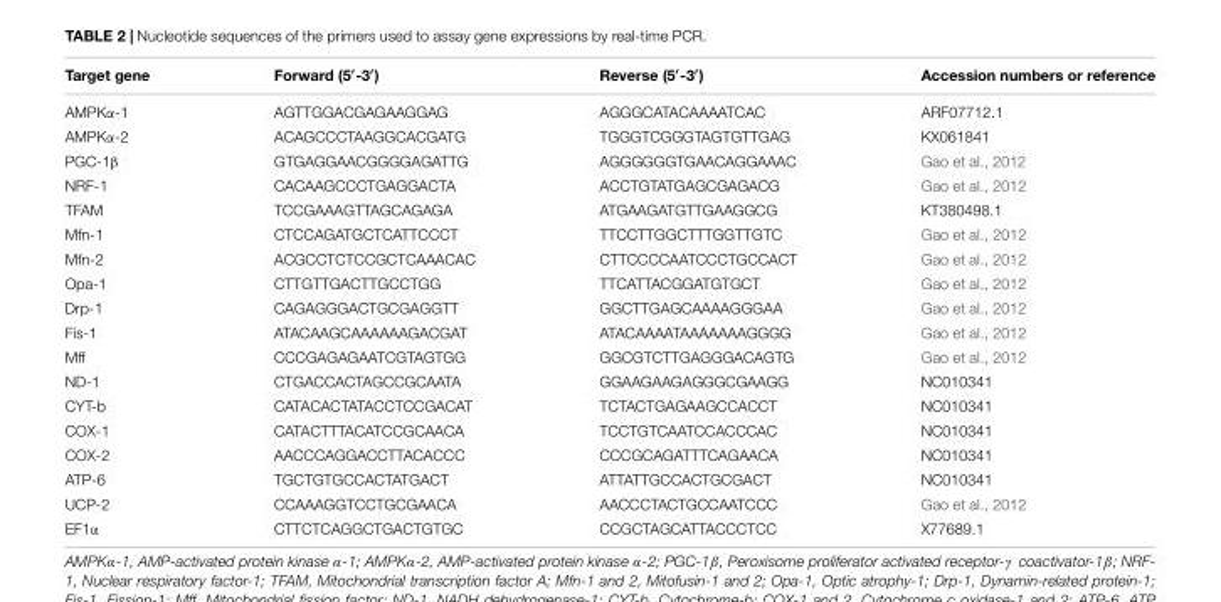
<table><thead><tr><td>Target gene</td><td>Forward (5′-3′)</td><td>Reverse (5′-3′)</td><td>Accession numbers or reference</td></tr></thead><tbody><tr><td>AMPKα-1</td><td>AGTTGGACGAGAAGGAG</td><td>AGGGCATACAAAATCAC</td><td>ARF07712.1</td></tr><tr><td>AMPKα-2</td><td>ACAGCCCTAAGGCACGATG</td><td>TGGGTCGGGTAGTGTTGAG</td><td>KX061841</td></tr><tr><td>PGC-1β</td><td>GTGAGGAACGGGGAGATTG</td><td>AGGGGGGTGAACAGGAAAC</td><td>Gao et al., 2012</td></tr><tr><td>NRF-1</td><td>CACAAGCCCTGAGGACTA</td><td>ACCTGTATGAGCGAGACG</td><td>Gao et al., 2012</td></tr><tr><td>TFAM</td><td>TCCGAAAGTTAGCAGAGA</td><td>ATGAAGATGTTGAAGGCG</td><td>KT380498.1</td></tr><tr><td>Mfn-1</td><td>CTCCAGATGCTCATTCCCT</td><td>TTCCTTGGCTTTGGTTGTC</td><td>Gao et al., 2012</td></tr><tr><td>Mfn-2</td><td>ACGCCTCTCCGCTCAAACAC</td><td>CTTCCCCAATCCCTGCCACT</td><td>Gao et al., 2012</td></tr><tr><td>Opa-1</td><td>CTTGTTGACTTGCCTGG</td><td>TTCATTACGGATGTGCT</td><td>Gao et al., 2012</td></tr><tr><td>Drp-1</td><td>CAGAGGGACTGCGAGGTT</td><td>GGCTTGAGCAAAAGGGAA</td><td>Gao et al., 2012</td></tr><tr><td>Fis-1</td><td>ATACAAGCAAAAAAGACGAT</td><td>ATACAAAATAAAAAAAGGGG</td><td>Gao et al., 2012</td></tr><tr><td>Mff</td><td>CCCGAGAGAATCGTAGTGG</td><td>GGCGTCTTGAGGGACAGTG</td><td>Gao et al., 2012</td></tr><tr><td>ND-1</td><td>CTGACCACTAGCCGCAATA</td><td>GGAAGAAGAGGGCGAAGG</td><td>NC010341</td></tr><tr><td>CYT-b</td><td>CATACACTATACCTCCGACAT</td><td>TCTACTGAGAAGCCACCT</td><td>NC010341</td></tr><tr><td>COX-1</td><td>CATACTTTACATCCGCAACA</td><td>TCCTGTCAATCCACCCAC</td><td>NC010341</td></tr><tr><td>COX-2</td><td>AACCCAGGACCTTACACCC</td><td>CCCGCAGATTTCAGAACA</td><td>NC010341</td></tr><tr><td>ATP-6</td><td>TGCTGTGCCACTATGACT</td><td>ATTATTGCCACTGCGACT</td><td>NC010341</td></tr><tr><td>UCP-2</td><td>CCAAAGGTCCTGCGAACA</td><td>AACCCTACTGCCAATCCC</td><td>Gao et al., 2012</td></tr><tr><td>EF1α</td><td>CTTCTCAGGCTGACTGTGC</td><td>CCGCTAGCATTACCCTCC</td><td>X77689.1</td></tr></tbody></table>